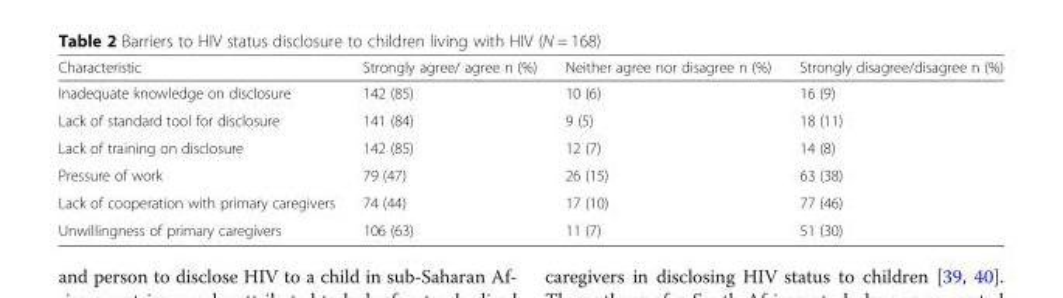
<table><thead><tr><td>Characteristic</td><td>Strongly agree/ agree n (%)</td><td>Neither agree nor disagree n (%)</td><td>Strongly disagree/disagree n (%)</td></tr></thead><tbody><tr><td>Inadequate knowledge on disclosure</td><td>142 (85)</td><td>10 (6)</td><td>16 (9)</td></tr><tr><td>Lack of standard tool for disclosure</td><td>141 (84)</td><td>9 (5)</td><td>18 (11)</td></tr><tr><td>Lack of training on disclosure</td><td>142 (85)</td><td>12 (7)</td><td>14 (8)</td></tr><tr><td>Pressure of work</td><td>79 (47)</td><td>26 (15)</td><td>63 (38)</td></tr><tr><td>Lack of cooperation with primary caregivers</td><td>74 (44)</td><td>17 (10)</td><td>77 (46)</td></tr><tr><td>Unwillingness of primary caregivers</td><td>106 (63)</td><td>11 (7)</td><td>51 (30)</td></tr></tbody></table>